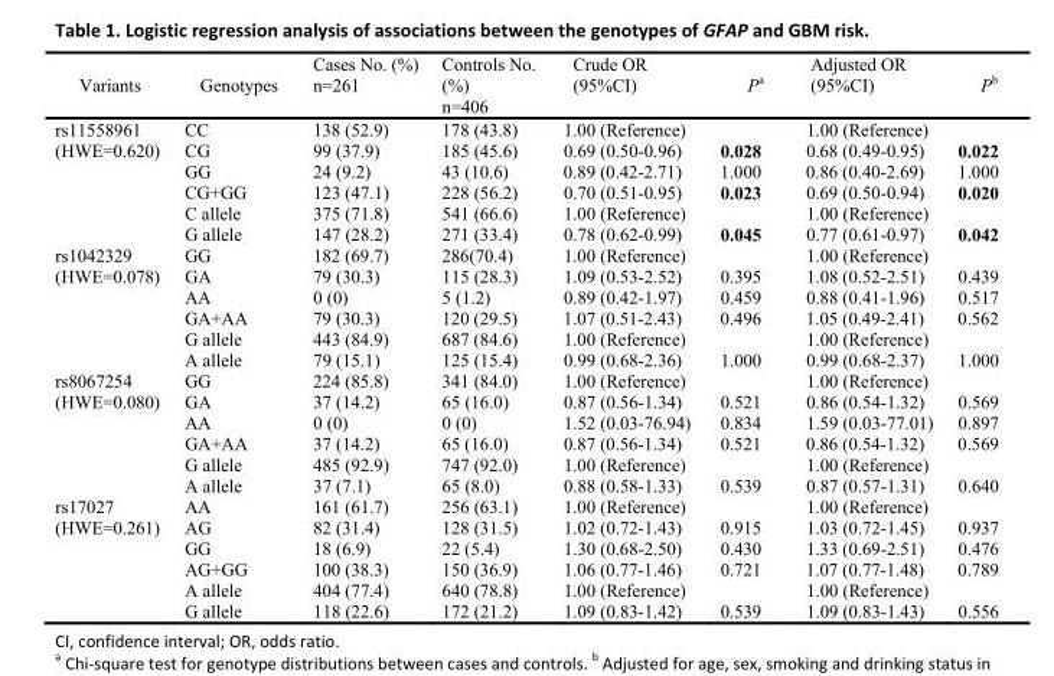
<table><tbody><tr><td>Variants</td><td>Genotypes</td><td>Cases No. (%) n=261</td><td>Controls No. (%) n=406</td><td>Crude OR (95%CI)</td><td>P<sup>a</sup></td><td>Adjusted OR (95%CI)</td><td>P<sup>b</sup></td></tr><tr><td>rs11558961</td><td>CC</td><td>138 (52.9)</td><td>178 (43.8)</td><td>1.00 (Reference)</td><td></td><td>1.00 (Reference)</td><td></td></tr><tr><td rowspan="5">(HWE=0.620)</td><td>CG</td><td>99 (37.9)</td><td>185 (45.6)</td><td>0.69 (0.50-0.96)</td><td>0.028</td><td>0.68 (0.49-0.95)</td><td>0.022</td></tr><tr><td>GG</td><td>24 (9.2)</td><td>43 (10.6)</td><td>0.89 (0.42-2.71)</td><td>1.000</td><td>0.86 (0.40-2.69)</td><td>1.000</td></tr><tr><td>CG+GG</td><td>123 (47.1)</td><td>228 (56.2)</td><td>0.70 (0.51-0.95)</td><td>0.023</td><td>0.69 (0.50-0.94)</td><td>0.020</td></tr><tr><td>C allele</td><td>375 (71.8)</td><td>541 (66.6)</td><td>1.00 (Reference)</td><td></td><td>1.00 (Reference)</td><td></td></tr><tr><td>G allele</td><td>147 (28.2)</td><td>271 (33.4)</td><td>0.78 (0.62-0.99)</td><td>0.045</td><td>0.77 (0.61-0.97)</td><td>0.042</td></tr><tr><td>rs1042329</td><td>GG</td><td>182 (69.7)</td><td>286(70.4)</td><td>1.00 (Reference)</td><td></td><td>1.00 (Reference)</td><td></td></tr><tr><td rowspan="5">(HWE=0.078)</td><td>GA</td><td>79 (30.3)</td><td>115 (28.3)</td><td>1.09 (0.53-2.52)</td><td>0.395</td><td>1.08 (0.52-2.51)</td><td>0.439</td></tr><tr><td>AA</td><td>0 (0)</td><td>5 (1.2)</td><td>0.89 (0.42-1.97)</td><td>0.459</td><td>0.88 (0.41-1.96)</td><td>0.517</td></tr><tr><td>GA+AA</td><td>79 (30.3)</td><td>120 (29.5)</td><td>1.07 (0.51-2.43)</td><td>0.496</td><td>1.05 (0.49-2.41)</td><td>0.562</td></tr><tr><td>G allele</td><td>443 (84.9)</td><td>687 (84.6)</td><td>1.00 (Reference)</td><td></td><td>1.00 (Reference)</td><td></td></tr><tr><td>A allele</td><td>79 (15.1)</td><td>125 (15.4)</td><td>0.99 (0.68-2.36)</td><td>1.000</td><td>0.99 (0.68-2.37)</td><td>1.000</td></tr><tr><td>rs8067254</td><td>GG</td><td>224 (85.8)</td><td>341 (84.0)</td><td>1.00 (Reference)</td><td></td><td>1.00 (Reference)</td><td></td></tr><tr><td rowspan="5">(HWE=0.080)</td><td>GA</td><td>37 (14.2)</td><td>65 (16.0)</td><td>0.87 (0.56-1.34)</td><td>0.521</td><td>0.86 (0.54-1.32)</td><td>0.569</td></tr><tr><td>AA</td><td>0 (0)</td><td>0 (0)</td><td>1.52 (0.03-76.94)</td><td>0.834</td><td>1.59 (0.03-77.01)</td><td>0.897</td></tr><tr><td>GA+AA</td><td>37 (14.2)</td><td>65 (16.0)</td><td>0.87 (0.56-1.34)</td><td>0.521</td><td>0.86 (0.54-1.32)</td><td>0.569</td></tr><tr><td>G allele</td><td>485 (92.9)</td><td>747 (92.0)</td><td>1.00 (Reference)</td><td></td><td>1.00 (Reference)</td><td></td></tr><tr><td>A allele</td><td>37 (7.1)</td><td>65 (8.0)</td><td>0.88 (0.58-1.33)</td><td>0.539</td><td>0.87 (0.57-1.31)</td><td>0.640</td></tr><tr><td>rs17027</td><td>AA</td><td>161 (61.7)</td><td>256 (63.1)</td><td>1.00 (Reference)</td><td></td><td>1.00 (Reference)</td><td></td></tr><tr><td rowspan="5">(HWE=0.261)</td><td>AG</td><td>82 (31.4)</td><td>128 (31.5)</td><td>1.02 (0.72-1.43)</td><td>0.915</td><td>1.03 (0.72-1.45)</td><td>0.937</td></tr><tr><td>GG</td><td>18 (6.9)</td><td>22 (5.4)</td><td>1.30 (0.68-2.50)</td><td>0.430</td><td>1.33 (0.69-2.51)</td><td>0.476</td></tr><tr><td>AG+GG</td><td>100 (38.3)</td><td>150 (36.9)</td><td>1.06 (0.77-1.46)</td><td>0.721</td><td>1.07 (0.77-1.48)</td><td>0.789</td></tr><tr><td>A allele</td><td>404 (77.4)</td><td>640 (78.8)</td><td>1.00 (Reference)</td><td></td><td>1.00 (Reference)</td><td></td></tr><tr><td>G allele</td><td>118 (22.6)</td><td>172 (21.2)</td><td>1.09 (0.83-1.42)</td><td>0.539</td><td>1.09 (0.83-1.43)</td><td>0.556</td></tr></tbody></table>